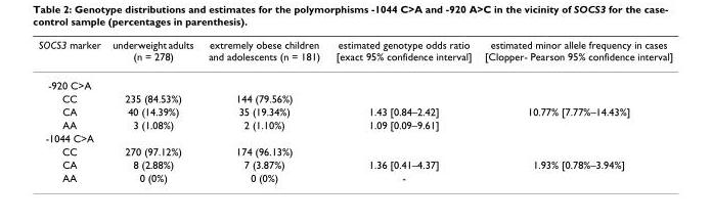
<table><thead><tr><td>SOCS3 marker</td><td>underweight adults (n = 278)</td><td>extremely obese children and adolescents (n = 181)</td><td>estimated genotype odds ratio [exact 95% confidence interval]</td><td>estimated minor allele frequency in cases [Clopper- Pearson 95% confidence interval]</td></tr></thead><tbody><tr><td colspan="5">-920 C&gt;A</td></tr><tr><td>CC</td><td>235 (84.53%)</td><td>144 (79.56%)</td><td></td><td></td></tr><tr><td>CA</td><td>40 (14.39%)</td><td>35 (19.34%)</td><td>1.43 [0.84–2.42]</td><td>10.77% [7.77%–14.43%]</td></tr><tr><td>AA</td><td>3 (1.08%)</td><td>2 (1.10%)</td><td>1.09 [0.09–9.61]</td><td></td></tr><tr><td colspan="5">-1044 C&gt;A</td></tr><tr><td>CC</td><td>270 (97.12%)</td><td>174 (96.13%)</td><td></td><td></td></tr><tr><td>CA</td><td>8 (2.88%)</td><td>7 (3.87%)</td><td>1.36 [0.41–4.37]</td><td>1.93% [0.78%–3.94%]</td></tr><tr><td>AA</td><td>0 (0%)</td><td>0 (0%)</td><td>-</td><td></td></tr></tbody></table>